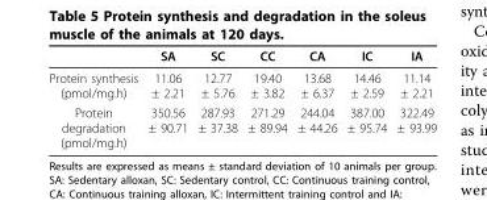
<table><thead><tr><td></td><td>SA</td><td>SC</td><td>CC</td><td>CA</td><td>IC</td><td>IA</td></tr></thead><tbody><tr><td>Protein synthesis (pmol/mg.h)</td><td>11.06 ± 2.21</td><td>12.77 ± 5.76</td><td>19.40 ± 3.82</td><td>13.68 ± 6.37</td><td>14.46 ± 2.59</td><td>11.14 ± 2.21</td></tr><tr><td>Protein degradation (pmol/mg.h)</td><td>350.56 ± 90.71</td><td>287.93 ± 37.38</td><td>271.29 ± 89.94</td><td>244.04 ± 44.26</td><td>387.00 ± 95.74</td><td>322.49 ± 93.99</td></tr></tbody></table>